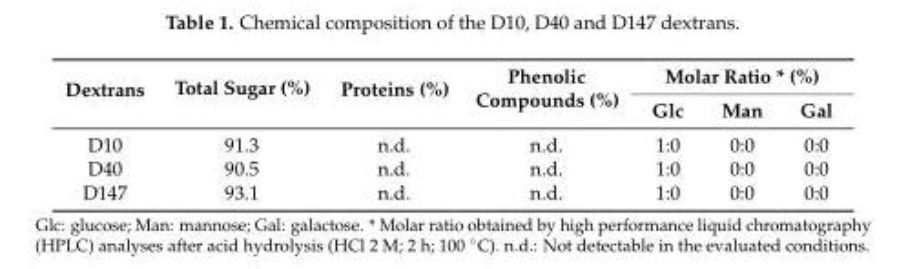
<table><thead><tr><td rowspan="2">Dextrans</td><td rowspan="2">Total Sugar (%)</td><td rowspan="2">Proteins (%)</td><td rowspan="2">Phenolic Compounds (%)</td><td colspan="3">Molar Ratio * (%)</td></tr><tr><td>Glc</td><td>Man</td><td>Gal</td></tr></thead><tbody><tr><td>D10</td><td>91.3</td><td>n.d.</td><td>n.d.</td><td>1:0</td><td>0:0</td><td>0:0</td></tr><tr><td>D40</td><td>90.5</td><td>n.d.</td><td>n.d.</td><td>1:0</td><td>0:0</td><td>0:0</td></tr><tr><td>D147</td><td>93.1</td><td>n.d.</td><td>n.d.</td><td>1:0</td><td>0:0</td><td>0:0</td></tr></tbody></table>